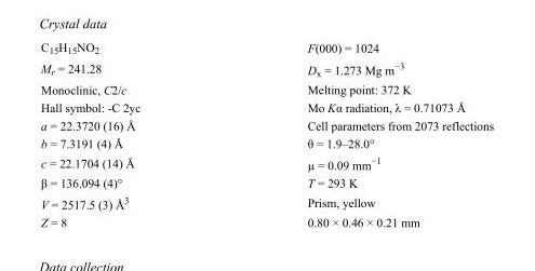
<table><tbody><tr><td>C<sub>15</sub>H<sub>15</sub>NO<sub>2</sub></td><td>F(000) = 1024</td></tr><tr><td>M<sub>r</sub> = 241.28</td><td>D<sub>x</sub> = 1.273 Mg m<sup>−3</sup></td></tr><tr><td>Monoclinic, C2/c</td><td>Melting point: 372 K</td></tr><tr><td>Hall symbol: -C 2yc</td><td>Mo Kα radiation, λ = 0.71073 Å</td></tr><tr><td>a = 22.3720 (16) Å</td><td>Cell parameters from 2073 reflections</td></tr><tr><td>b = 7.3191 (4) Å</td><td>θ = 1.9–28.0°</td></tr><tr><td>c = 22.1704 (14) Å</td><td>µ = 0.09 mm<sup>−1</sup></td></tr><tr><td>β = 136.094 (4)°</td><td>T = 293 K</td></tr><tr><td>V = 2517.5 (3) Å<sup>3</sup></td><td>Prism, yellow</td></tr><tr><td>Z = 8</td><td>0.80 × 0.46 × 0.21 mm</td></tr></tbody></table>